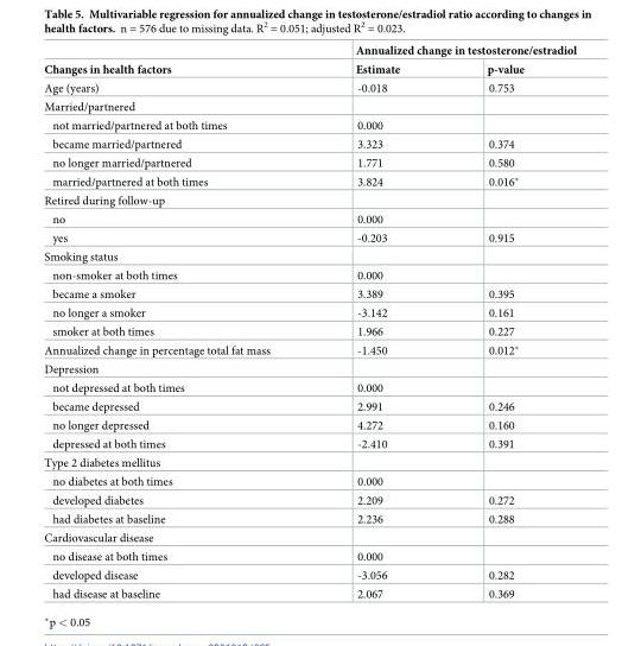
<table><thead><tr><td rowspan="2">Changes in health factors</td><td colspan="2">Annualized change in testosterone/estradiol</td></tr><tr><td>Estimate</td><td>p-value</td></tr></thead><tbody><tr><td>Age (years)</td><td>-0.018</td><td>0.753</td></tr><tr><td colspan="3">Married/partnered</td></tr><tr><td>not married/partnered at both times</td><td>0.000</td><td></td></tr><tr><td>became married/partnered</td><td>3.323</td><td>0.374</td></tr><tr><td>no longer married/partnered</td><td>1.771</td><td>0.580</td></tr><tr><td>married/partnered at both times</td><td>3.824</td><td>0.016*</td></tr><tr><td colspan="3">Retired during follow-up</td></tr><tr><td>no</td><td>0.000</td><td></td></tr><tr><td>yes</td><td>-0.203</td><td>0.915</td></tr><tr><td colspan="3">Smoking status</td></tr><tr><td>non-smoker at both times</td><td>0.000</td><td></td></tr><tr><td>became a smoker</td><td>3.389</td><td>0.395</td></tr><tr><td>no longer a smoker</td><td>-3.142</td><td>0.161</td></tr><tr><td>smoker at both times</td><td>1.966</td><td>0.227</td></tr><tr><td>Annualized change in percentage total fat mass</td><td>-1.450</td><td>0.012*</td></tr><tr><td colspan="3">Depression</td></tr><tr><td>not depressed at both times</td><td>0.000</td><td></td></tr><tr><td>became depressed</td><td>2.991</td><td>0.246</td></tr><tr><td>no longer depressed</td><td>4.272</td><td>0.160</td></tr><tr><td>depressed at both times</td><td>-2.410</td><td>0.391</td></tr><tr><td colspan="3">Type 2 diabetes mellitus</td></tr><tr><td>no diabetes at both times</td><td>0.000</td><td></td></tr><tr><td>developed diabetes</td><td>2.209</td><td>0.272</td></tr><tr><td>had diabetes at baseline</td><td>2.236</td><td>0.288</td></tr><tr><td colspan="3">Cardiovascular disease</td></tr><tr><td>no disease at both times</td><td>0.000</td><td></td></tr><tr><td>developed disease</td><td>-3.056</td><td>0.282</td></tr><tr><td>had disease at baseline</td><td>2.067</td><td>0.369</td></tr></tbody></table>